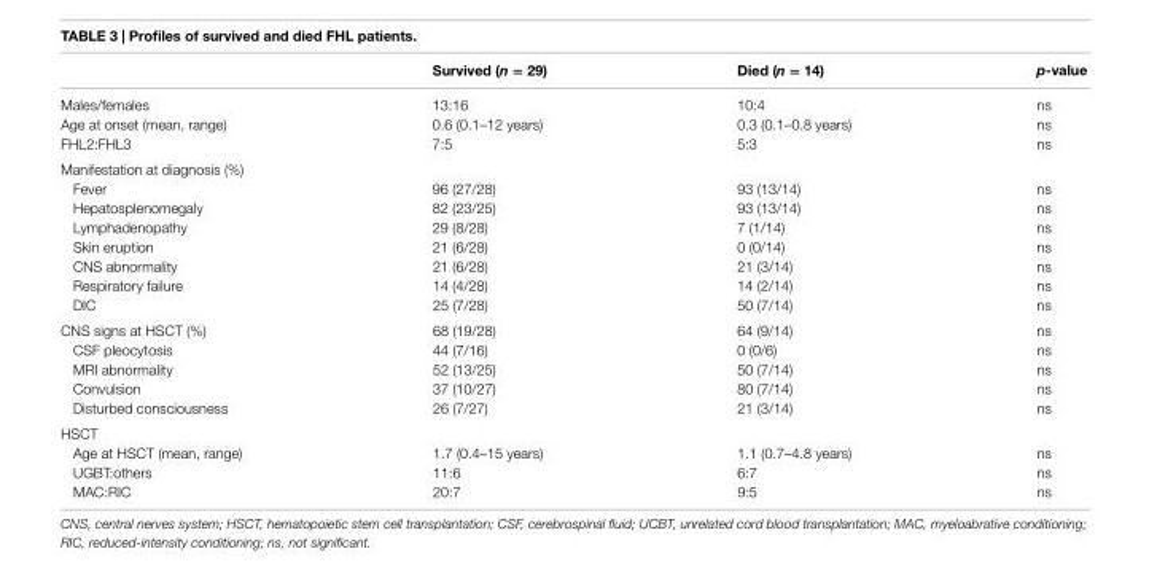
<table><thead><tr><td></td><td>Survived (n = 29)</td><td>Died (n = 14)</td><td>p-value</td></tr></thead><tbody><tr><td>Males/females</td><td>13:16</td><td>10:4</td><td>ns</td></tr><tr><td>Age at onset (mean, range)</td><td>0.6 (0.1–12 years)</td><td>0.3 (0.1–0.8 years)</td><td>ns</td></tr><tr><td>FHL2:FHL3</td><td>7:5</td><td>5:3</td><td>ns</td></tr><tr><td colspan="4">Manifestation at diagnosis (%)</td></tr><tr><td>Fever</td><td>96 (27/28)</td><td>93 (13/14)</td><td>ns</td></tr><tr><td>Hepatosplenomegaly</td><td>82 (23/25)</td><td>93 (13/14)</td><td>ns</td></tr><tr><td>Lymphadenopathy</td><td>29 (8/28)</td><td>7 (1/14)</td><td>ns</td></tr><tr><td>Skin eruption</td><td>21 (6/28)</td><td>0 (0/14)</td><td>ns</td></tr><tr><td>CNS abnormality</td><td>21 (6/28)</td><td>21 (3/14)</td><td>ns</td></tr><tr><td>Respiratory failure</td><td>14 (4/28)</td><td>14 (2/14)</td><td>ns</td></tr><tr><td>DIC</td><td>25 (7/28)</td><td>50 (7/14)</td><td>ns</td></tr><tr><td>CNS signs at HSCT (%)</td><td>68 (19/28)</td><td>64 (9/14)</td><td>ns</td></tr><tr><td>CSF pleocytosis</td><td>44 (7/16)</td><td>0 (0/6)</td><td>ns</td></tr><tr><td>MRI abnormality</td><td>52 (13/25)</td><td>50 (7/14)</td><td>ns</td></tr><tr><td>Convulsion</td><td>37 (10/27)</td><td>80 (7/14)</td><td>ns</td></tr><tr><td>Disturbed consciousness</td><td>26 (7/27)</td><td>21 (3/14)</td><td>ns</td></tr><tr><td colspan="4">HSCT</td></tr><tr><td>Age at HSCT (mean, range)</td><td>1.7 (0.4–15 years)</td><td>1.1 (0.7–4.8 years)</td><td>ns</td></tr><tr><td>UGBT:others</td><td>11:6</td><td>6:7</td><td>ns</td></tr><tr><td>MAC:RIC</td><td>20:7</td><td>9:5</td><td>ns</td></tr></tbody></table>